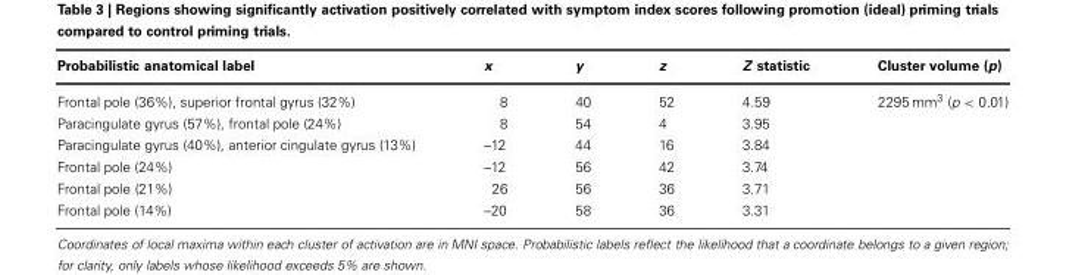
<table><thead><tr><td>Probabilistic anatomical label</td><td>x</td><td>y</td><td>z</td><td>Z statistic</td><td>Cluster volume (p)</td></tr></thead><tbody><tr><td>Frontal pole (36%), superior frontal gyrus (32%)</td><td>8</td><td>40</td><td>52</td><td>4.59</td><td>2295 mm<sup>3</sup> (p &lt; 0.01)</td></tr><tr><td>Paracingulate gyrus (57%), frontal pole (24%)</td><td>8</td><td>54</td><td>4</td><td>3.95</td><td></td></tr><tr><td>Paracingulate gyrus (40%), anterior cingulate gyrus (13%)</td><td>–12</td><td>44</td><td>16</td><td>3.84</td><td></td></tr><tr><td>Frontal pole (24%)</td><td>–12</td><td>56</td><td>42</td><td>3.74</td><td></td></tr><tr><td>Frontal pole (21%)</td><td>26</td><td>56</td><td>36</td><td>3.71</td><td></td></tr><tr><td>Frontal pole (14%)</td><td>–20</td><td>58</td><td>36</td><td>3.31</td><td></td></tr></tbody></table>